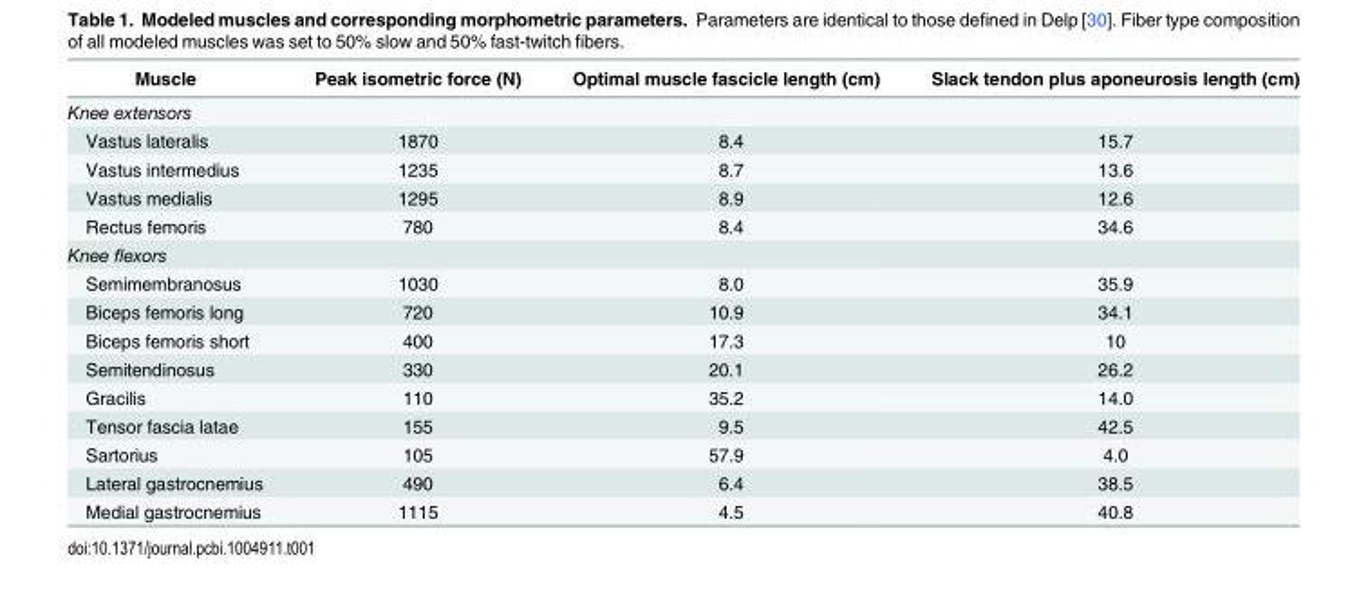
<table><thead><tr><td>Muscle</td><td>Peak isometric force (N)</td><td>Optimal muscle fascicle length (cm)</td><td>Slack tendon plus aponeurosis length (cm)</td></tr></thead><tbody><tr><td colspan="4">Knee extensors</td></tr><tr><td>Vastus lateralis</td><td>1870</td><td>8.4</td><td>15.7</td></tr><tr><td>Vastus intermedius</td><td>1235</td><td>8.7</td><td>13.6</td></tr><tr><td>Vastus medialis</td><td>1295</td><td>8.9</td><td>12.6</td></tr><tr><td>Rectus femoris</td><td>780</td><td>8.4</td><td>34.6</td></tr><tr><td colspan="4">Knee flexors</td></tr><tr><td>Semimembranosus</td><td>1030</td><td>8.0</td><td>35.9</td></tr><tr><td>Biceps femoris long</td><td>720</td><td>10.9</td><td>34.1</td></tr><tr><td>Biceps femoris short</td><td>400</td><td>17.3</td><td>10</td></tr><tr><td>Semitendinosus</td><td>330</td><td>20.1</td><td>26.2</td></tr><tr><td>Gracilis</td><td>110</td><td>35.2</td><td>14.0</td></tr><tr><td>Tensor fascia latae</td><td>155</td><td>9.5</td><td>42.5</td></tr><tr><td>Sartorius</td><td>105</td><td>57.9</td><td>4.0</td></tr><tr><td>Lateral gastrocnemius</td><td>490</td><td>6.4</td><td>38.5</td></tr><tr><td>Medial gastrocnemius</td><td>1115</td><td>4.5</td><td>40.8</td></tr></tbody></table>